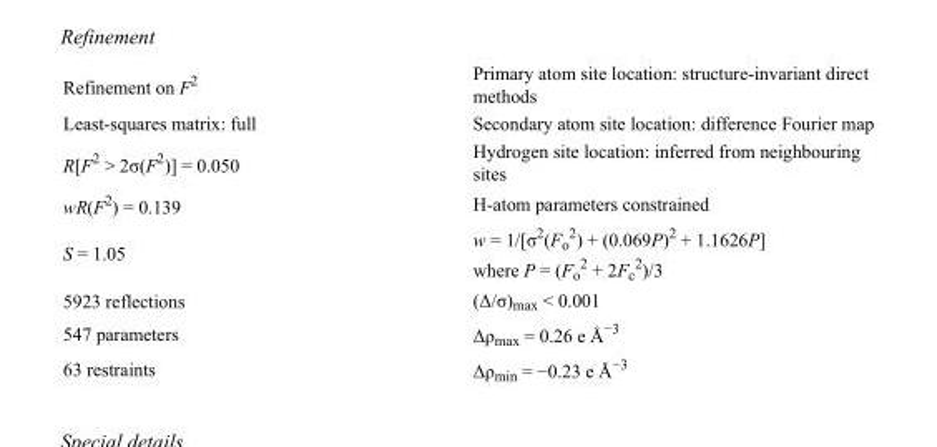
<table><tbody><tr><td>Refinement on F<sup>2</sup></td><td>Primary atom site location: structure-invariant direct methods</td></tr><tr><td>Least-squares matrix: full</td><td>Secondary atom site location: difference Fourier map</td></tr><tr><td>R[F<sup>2</sup> &gt; 2σ(F<sup>2</sup>)] = 0.050</td><td>Hydrogen site location: inferred from neighbouring sites</td></tr><tr><td>wR(F<sup>2</sup>) = 0.139</td><td>H-atom parameters constrained</td></tr><tr><td>S = 1.05</td><td>w = 1/[σ<sup>2</sup>(F<sub>o</sub> <sup>2</sup>) + (0.069P)<sup>2</sup> + 1.1626P] where P = (F<sub>o</sub> <sup>2</sup> + 2F<sub>c</sub> <sup>2</sup>)/3</td></tr><tr><td>5923 reflections</td><td>(Δ/σ)<sub>max</sub> &lt; 0.001</td></tr><tr><td>547 parameters</td><td>Δρ<sub>max</sub> = 0.26 e Å<sup>−3</sup></td></tr><tr><td>63 restraints</td><td>Δρ<sub>min</sub> = −0.23 e Å<sup>−3</sup></td></tr></tbody></table>